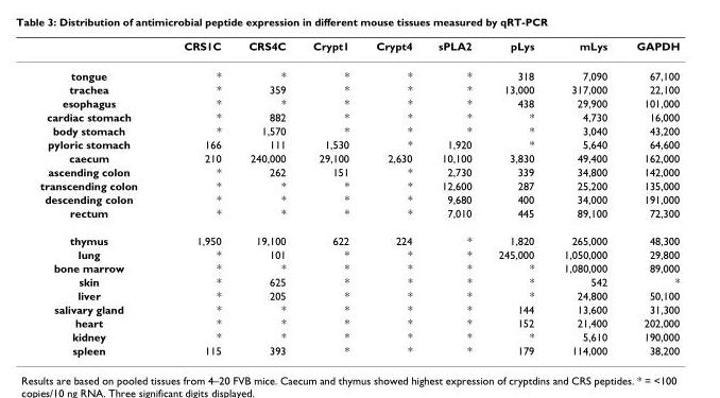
<table><thead><tr><td></td><td>CRS1C</td><td>CRS4C</td><td>Crypt1</td><td>Crypt4</td><td>sPLA2</td><td>pLys</td><td>mLys</td><td>GAPDH</td></tr></thead><tbody><tr><td>tongue</td><td>*</td><td>*</td><td>*</td><td>*</td><td>*</td><td>318</td><td>7,090</td><td>67,100</td></tr><tr><td>trachea</td><td>*</td><td>359</td><td>*</td><td>*</td><td>*</td><td>13,000</td><td>317,000</td><td>22,100</td></tr><tr><td>esophagus</td><td>*</td><td>*</td><td>*</td><td>*</td><td>*</td><td>438</td><td>29,900</td><td>101,000</td></tr><tr><td>cardiac stomach</td><td>*</td><td>882</td><td>*</td><td>*</td><td>*</td><td>*</td><td>4,730</td><td>16,000</td></tr><tr><td>body stomach</td><td>*</td><td>1,570</td><td>*</td><td>*</td><td>*</td><td>*</td><td>3,040</td><td>43,200</td></tr><tr><td>pyloric stomach</td><td>166</td><td>111</td><td>1,530</td><td>*</td><td>1,920</td><td>*</td><td>5,640</td><td>64,600</td></tr><tr><td>caecum</td><td>210</td><td>240,000</td><td>29,100</td><td>2,630</td><td>10,100</td><td>3,830</td><td>49,400</td><td>162,000</td></tr><tr><td>ascending colon</td><td>*</td><td>262</td><td>151</td><td>*</td><td>2,730</td><td>339</td><td>34,800</td><td>142,000</td></tr><tr><td>transcending colon</td><td>*</td><td>*</td><td>*</td><td>*</td><td>12,600</td><td>287</td><td>25,200</td><td>135,000</td></tr><tr><td>descending colon</td><td>*</td><td>*</td><td>*</td><td>*</td><td>9,680</td><td>400</td><td>34,000</td><td>191,000</td></tr><tr><td>rectum</td><td>*</td><td>*</td><td>*</td><td>*</td><td>7,010</td><td>445</td><td>89,100</td><td>72,300</td></tr><tr><td>thymus</td><td>1,950</td><td>19,100</td><td>622</td><td>224</td><td>*</td><td>1,820</td><td>265,000</td><td>48,300</td></tr><tr><td>lung</td><td>*</td><td>101</td><td>*</td><td>*</td><td>*</td><td>245,000</td><td>1,050,000</td><td>29,800</td></tr><tr><td>bone marrow</td><td>*</td><td>*</td><td>*</td><td>*</td><td>*</td><td>*</td><td>1,080,000</td><td>89,000</td></tr><tr><td>skin</td><td>*</td><td>625</td><td>*</td><td>*</td><td>*</td><td>*</td><td>542</td><td>*</td></tr><tr><td>liver</td><td>*</td><td>205</td><td>*</td><td>*</td><td>*</td><td>*</td><td>24,800</td><td>50,100</td></tr><tr><td>salivary gland</td><td>*</td><td>*</td><td>*</td><td>*</td><td>*</td><td>144</td><td>13,600</td><td>31,300</td></tr><tr><td>heart</td><td>*</td><td>*</td><td>*</td><td>*</td><td>*</td><td>152</td><td>21,400</td><td>202,000</td></tr><tr><td>kidney</td><td>*</td><td>*</td><td>*</td><td>*</td><td>*</td><td>*</td><td>5,610</td><td>190,000</td></tr><tr><td>spleen</td><td>115</td><td>393</td><td>*</td><td>*</td><td>*</td><td>179</td><td>114,000</td><td>38,200</td></tr></tbody></table>